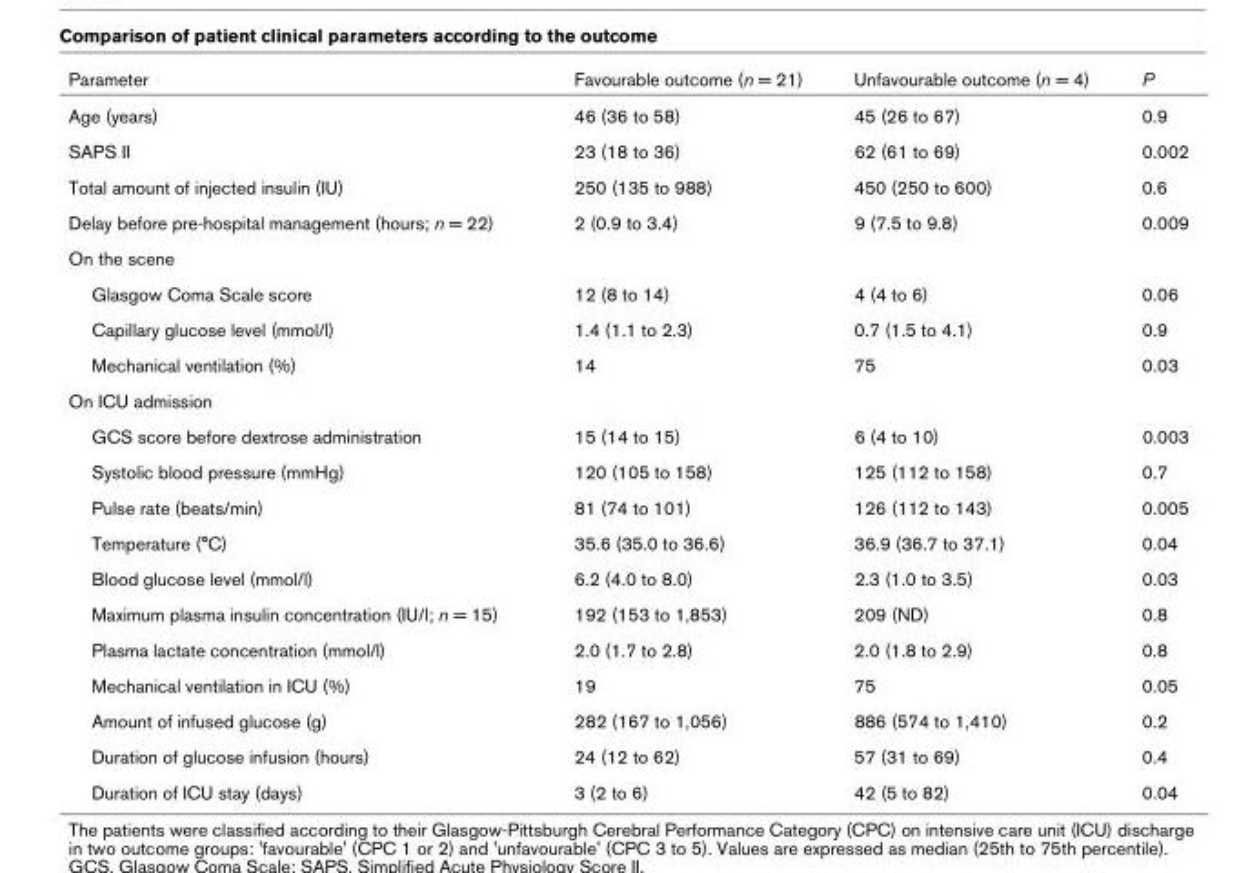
<table><thead><tr><td>Parameter</td><td>Favourable outcome (n = 21)</td><td>Unfavourable outcome (n = 4)</td><td>P</td></tr></thead><tbody><tr><td>Age (years)</td><td>46 (36 to 58)</td><td>45 (26 to 67)</td><td>0.9</td></tr><tr><td>SAPS II</td><td>23 (18 to 36)</td><td>62 (61 to 69)</td><td>0.002</td></tr><tr><td>Total amount of injected insulin (IU)</td><td>250 (135 to 988)</td><td>450 (250 to 600)</td><td>0.6</td></tr><tr><td>Delay before pre-hospital management (hours; n = 22)</td><td>2 (0.9 to 3.4)</td><td>9 (7.5 to 9.8)</td><td>0.009</td></tr><tr><td colspan="4">On the scene</td></tr><tr><td>Glasgow Coma Scale score</td><td>12 (8 to 14)</td><td>4 (4 to 6)</td><td>0.06</td></tr><tr><td>Capillary glucose level (mmol/l)</td><td>1.4 (1.1 to 2.3)</td><td>0.7 (1.5 to 4.1)</td><td>0.9</td></tr><tr><td>Mechanical ventilation (%)</td><td>14</td><td>75</td><td>0.03</td></tr><tr><td colspan="4">On ICU admission</td></tr><tr><td>GCS score before dextrose administration</td><td>15 (14 to 15)</td><td>6 (4 to 10)</td><td>0.003</td></tr><tr><td>Systolic blood pressure (mmHg)</td><td>120 (105 to 158)</td><td>125 (112 to 158)</td><td>0.7</td></tr><tr><td>Pulse rate (beats/min)</td><td>81 (74 to 101)</td><td>126 (112 to 143)</td><td>0.005</td></tr><tr><td>Temperature (°C)</td><td>35.6 (35.0 to 36.6)</td><td>36.9 (36.7 to 37.1)</td><td>0.04</td></tr><tr><td>Blood glucose level (mmol/l)</td><td>6.2 (4.0 to 8.0)</td><td>2.3 (1.0 to 3.5)</td><td>0.03</td></tr><tr><td>Maximum plasma insulin concentration (IU/l; n = 15)</td><td>192 (153 to 1,853)</td><td>209 (ND)</td><td>0.8</td></tr><tr><td>Plasma lactate concentration (mmol/l)</td><td>2.0 (1.7 to 2.8)</td><td>2.0 (1.8 to 2.9)</td><td>0.8</td></tr><tr><td>Mechanical ventilation in ICU (%)</td><td>19</td><td>75</td><td>0.05</td></tr><tr><td>Amount of infused glucose (g)</td><td>282 (167 to 1,056)</td><td>886 (574 to 1,410)</td><td>0.2</td></tr><tr><td>Duration of glucose infusion (hours)</td><td>24 (12 to 62)</td><td>57 (31 to 69)</td><td>0.4</td></tr><tr><td>Duration of ICU stay (days)</td><td>3 (2 to 6)</td><td>42 (5 to 82)</td><td>0.04</td></tr></tbody></table>